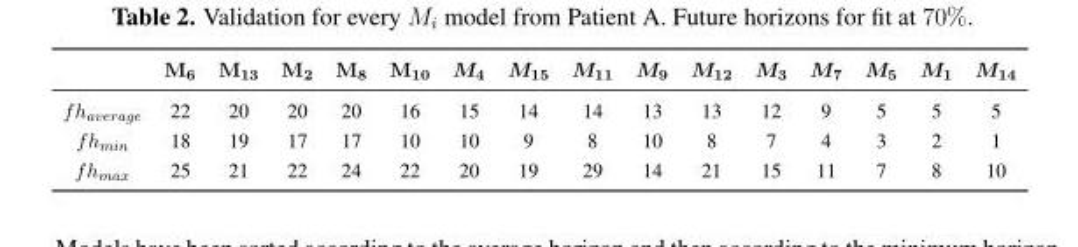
<table><thead><tr><td></td><td>M<sub>6</sub></td><td>M<sub>13</sub></td><td>M<sub>2</sub></td><td>M<sub>8</sub></td><td>M<sub>10</sub></td><td>M<sub>4</sub></td><td>M<sub>15</sub></td><td>M<sub>11</sub></td><td>M<sub>9</sub></td><td>M<sub>12</sub></td><td>M<sub>3</sub></td><td>M<sub>7</sub></td><td>M<sub>5</sub></td><td>M<sub>1</sub></td><td>M<sub>14</sub></td></tr></thead><tbody><tr><td>fh<sub>average</sub></td><td>22</td><td>20</td><td>20</td><td>20</td><td>16</td><td>15</td><td>14</td><td>14</td><td>13</td><td>13</td><td>12</td><td>9</td><td>5</td><td>5</td><td>5</td></tr><tr><td>fh<sub>min</sub></td><td>18</td><td>19</td><td>17</td><td>17</td><td>10</td><td>10</td><td>9</td><td>8</td><td>10</td><td>8</td><td>7</td><td>4</td><td>3</td><td>2</td><td>1</td></tr><tr><td>fh<sub>max</sub></td><td>25</td><td>21</td><td>22</td><td>24</td><td>22</td><td>20</td><td>19</td><td>29</td><td>14</td><td>21</td><td>15</td><td>11</td><td>7</td><td>8</td><td>10</td></tr></tbody></table>